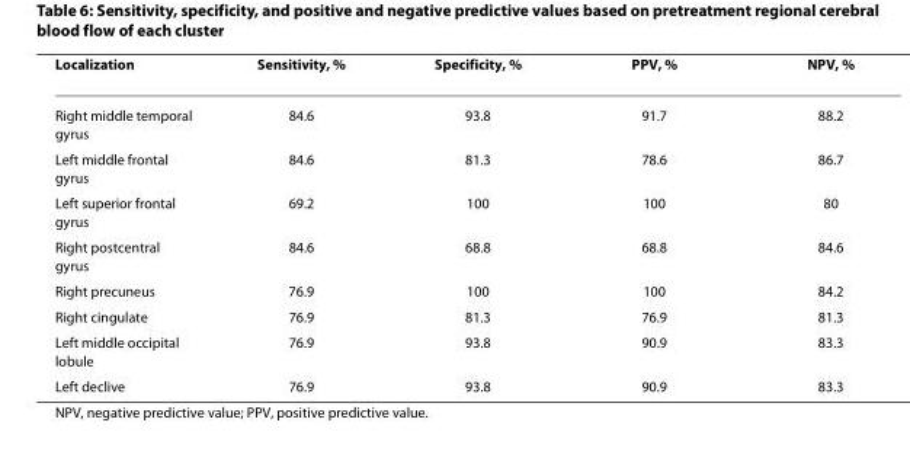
<table><thead><tr><td>Localization</td><td>Sensitivity, %</td><td>Specificity, %</td><td>PPV, %</td><td>NPV, %</td></tr></thead><tbody><tr><td>Right middle temporal gyrus</td><td>84.6</td><td>93.8</td><td>91.7</td><td>88.2</td></tr><tr><td>Left middle frontal gyrus</td><td>84.6</td><td>81.3</td><td>78.6</td><td>86.7</td></tr><tr><td>Left superior frontal gyrus</td><td>69.2</td><td>100</td><td>100</td><td>80</td></tr><tr><td>Right postcentral gyrus</td><td>84.6</td><td>68.8</td><td>68.8</td><td>84.6</td></tr><tr><td>Right precuneus</td><td>76.9</td><td>100</td><td>100</td><td>84.2</td></tr><tr><td>Right cingulate</td><td>76.9</td><td>81.3</td><td>76.9</td><td>81.3</td></tr><tr><td>Left middle occipital lobule</td><td>76.9</td><td>93.8</td><td>90.9</td><td>83.3</td></tr><tr><td>Left declive</td><td>76.9</td><td>93.8</td><td>90.9</td><td>83.3</td></tr></tbody></table>